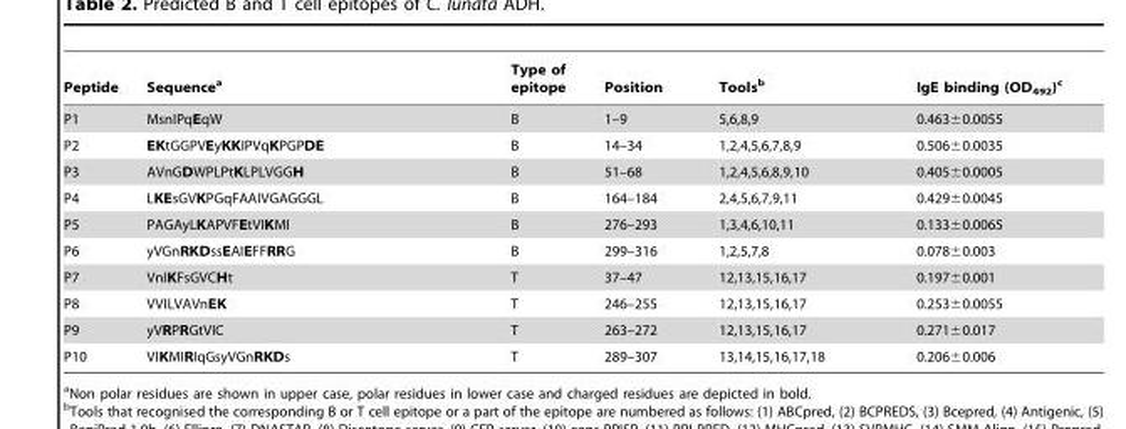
<table><thead><tr><td>Peptide</td><td>Sequence<sup>a</sup></td><td>Type of epitope</td><td>Position</td><td>Tools<sup>b</sup></td><td>IgE binding (OD<sub>492</sub>)<sup>c</sup></td></tr></thead><tbody><tr><td>P1</td><td>MsnIPqEqW</td><td>B</td><td>1–9</td><td>5,6,8,9</td><td>0.463±0.0055</td></tr><tr><td>P2</td><td>EKtGGPVEyKKIPVqKPGPDE</td><td>B</td><td>14–34</td><td>1,2,4,5,6,7,8,9</td><td>0.506±0.0035</td></tr><tr><td>P3</td><td>AVnGDWPLPtKLPLVGGH</td><td>B</td><td>51–68</td><td>1,2,4,5,6,8,9,10</td><td>0.405±0.0005</td></tr><tr><td>P4</td><td>LKEsGVKPGqFAAIVGAGGGL</td><td>B</td><td>164–184</td><td>2,4,5,6,7,9,11</td><td>0.429±0.0045</td></tr><tr><td>P5</td><td>PAGAyLKAPVFEtVIKMI</td><td>B</td><td>276–293</td><td>1,3,4,6,10,11</td><td>0.133±0.0065</td></tr><tr><td>P6</td><td>yVGnRKDssEAIEFFRRG</td><td>B</td><td>299–316</td><td>1,2,5,7,8</td><td>0.078±0.003</td></tr><tr><td>P7</td><td>VnIKFsGVCHt</td><td>T</td><td>37–47</td><td>12,13,15,16,17</td><td>0.197±0.001</td></tr><tr><td>P8</td><td>VVILVAVnEK</td><td>T</td><td>246–255</td><td>12,13,15,16,17</td><td>0.253±0.0055</td></tr><tr><td>P9</td><td>yVRPRGtVIC</td><td>T</td><td>263–272</td><td>12,13,15,16,17</td><td>0.271±0.017</td></tr><tr><td>P10</td><td>VIKMIRIqGsyVGnRKDs</td><td>T</td><td>289–307</td><td>13,14,15,16,17,18</td><td>0.206±0.006</td></tr></tbody></table>